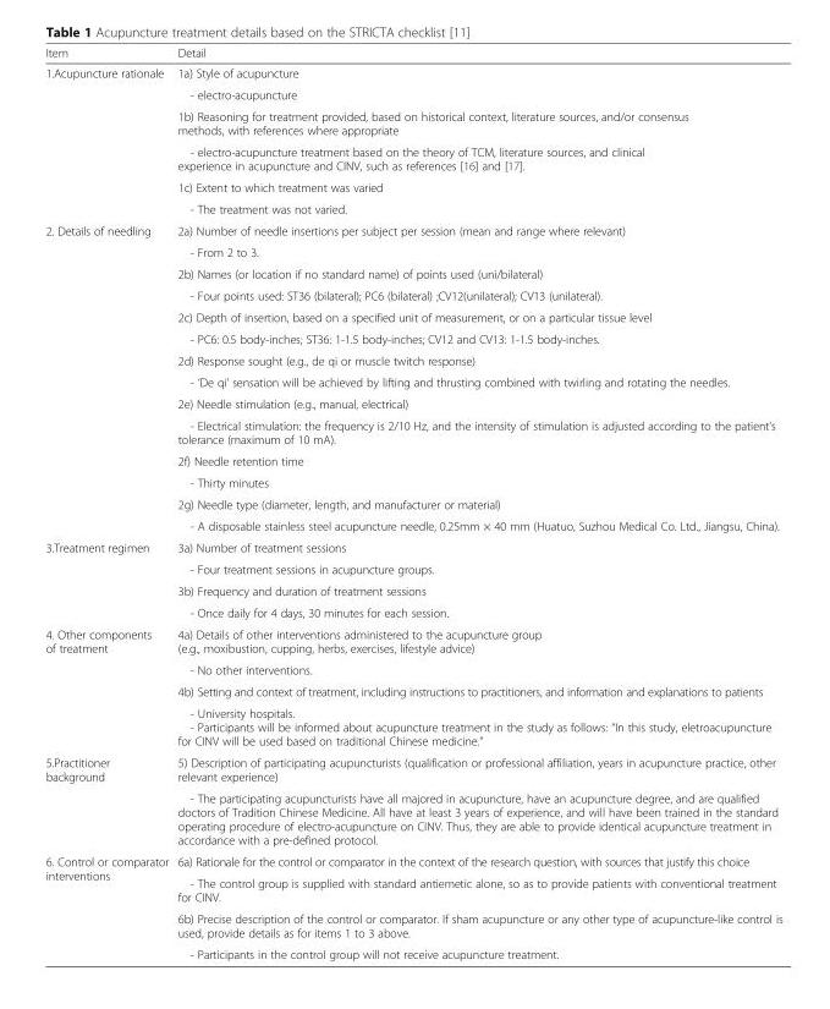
<table><thead><tr><td>Item</td><td>Detail</td></tr></thead><tbody><tr><td rowspan="6">1.Acupuncture rationale</td><td>1a) Style of acupuncture</td></tr><tr><td>- electro-acupuncture</td></tr><tr><td>1b) Reasoning for treatment provided, based on historical context, literature sources, and/or consensus methods, with references where appropriate</td></tr><tr><td>- electro-acupuncture treatment based on the theory of TCM, literature sources, and clinical experience in acupuncture and CINV, such as references [16] and [17].</td></tr><tr><td>1c) Extent to which treatment was varied</td></tr><tr><td>- The treatment was not varied.</td></tr><tr><td rowspan="14">2. Details of needling</td><td>2a) Number of needle insertions per subject per session (mean and range where relevant)</td></tr><tr><td>- From 2 to 3.</td></tr><tr><td>2b) Names (or location if no standard name) of points used (uni/bilateral)</td></tr><tr><td>- Four points used: ST36 (bilateral); PC6 (bilateral) ;CV12(unilateral); CV13 (unilateral).</td></tr><tr><td>2c) Depth of insertion, based on a specified unit of measurement, or on a particular tissue level</td></tr><tr><td>- PC6: 0.5 body-inches; ST36: 1-1.5 body-inches; CV12 and CV13: 1-1.5 body-inches.</td></tr><tr><td>2d) Response sought (e.g., de qi or muscle twitch response)</td></tr><tr><td>- ‘De qi’ sensation will be achieved by lifting and thrusting combined with twirling and rotating the needles.</td></tr><tr><td>2e) Needle stimulation (e.g., manual, electrical)</td></tr><tr><td>- Electrical stimulation: the frequency is 2/10 Hz, and the intensity of stimulation is adjusted according to the patient’s tolerance (maximum of 10 mA).</td></tr><tr><td>2f) Needle retention time</td></tr><tr><td>- Thirty minutes</td></tr><tr><td>2g) Needle type (diameter, length, and manufacturer or material)</td></tr><tr><td>- A disposable stainless steel acupuncture needle, 0.25mm × 40 mm (Huatuo, Suzhou Medical Co. Ltd., Jiangsu, China).</td></tr><tr><td rowspan="4">3.Treatment regimen</td><td>3a) Number of treatment sessions</td></tr><tr><td>- Four treatment sessions in acupuncture groups.</td></tr><tr><td>3b) Frequency and duration of treatment sessions</td></tr><tr><td>- Once daily for 4 days, 30 minutes for each session.</td></tr><tr><td rowspan="4">4. Other components of treatment</td><td>4a) Details of other interventions administered to the acupuncture group (e.g., moxibustion, cupping, herbs, exercises, lifestyle advice)</td></tr><tr><td>- No other interventions.</td></tr><tr><td>4b) Setting and context of treatment, including instructions to practitioners, and information and explanations to patients</td></tr><tr><td>- University hospitals. - Participants will be informed about acupuncture treatment in the study as follows: “In this study, eletroacupuncture for CINV will be used based on traditional Chinese medicine.”</td></tr><tr><td rowspan="2">5.Practitioner background</td><td>5) Description of participating acupuncturists (qualification or professional affiliation, years in acupuncture practice, other relevant experience)</td></tr><tr><td>- The participating acupuncturists have all majored in acupuncture, have an acupuncture degree, and are qualified doctors of Tradition Chinese Medicine. All have at least 3 years of experience, and will have been trained in the standard operating procedure of electro-acupuncture on CINV. Thus, they are able to provide identical acupuncture treatment in accordance with a pre-defined protocol.</td></tr><tr><td rowspan="4">6. Control or comparator interventions</td><td>6a) Rationale for the control or comparator in the context of the research question, with sources that justify this choice</td></tr><tr><td>- The control group is supplied with standard antiemetic alone, so as to provide patients with conventional treatment for CINV.</td></tr><tr><td>6b) Precise description of the control or comparator. If sham acupuncture or any other type of acupuncture-like control is used, provide details as for items 1 to 3 above.</td></tr><tr><td>- Participants in the control group will not receive acupuncture treatment.</td></tr></tbody></table>